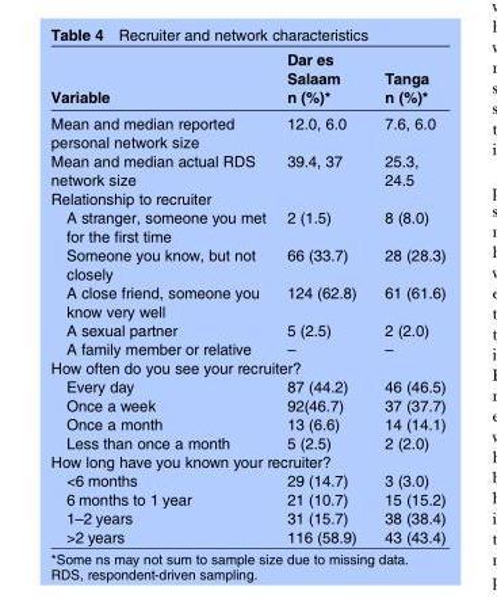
<table><thead><tr><td>Variable</td><td>Dar es Salaam n (%)*</td><td>Tanga n (%)*</td></tr></thead><tbody><tr><td>Mean and median reported personal network size</td><td>12.0, 6.0</td><td>7.6, 6.0</td></tr><tr><td>Mean and median actual RDS network size</td><td>39.4, 37</td><td>25.3, 24.5</td></tr><tr><td colspan="3">Relationship to recruiter</td></tr><tr><td>A stranger, someone you met for the first time</td><td>2 (1.5)</td><td>8 (8.0)</td></tr><tr><td>Someone you know, but not closely</td><td>66 (33.7)</td><td>28 (28.3)</td></tr><tr><td>A close friend, someone you know very well</td><td>124 (62.8)</td><td>61 (61.6)</td></tr><tr><td>A sexual partner</td><td>5 (2.5)</td><td>2 (2.0)</td></tr><tr><td>A family member or relative</td><td>–</td><td>–</td></tr><tr><td colspan="3">How often do you see your recruiter?</td></tr><tr><td>Every day</td><td>87 (44.2)</td><td>46 (46.5)</td></tr><tr><td>Once a week</td><td>92(46.7)</td><td>37 (37.7)</td></tr><tr><td>Once a month</td><td>13 (6.6)</td><td>14 (14.1)</td></tr><tr><td>Less than once a month</td><td>5 (2.5)</td><td>2 (2.0)</td></tr><tr><td colspan="3">How long have you known your recruiter?</td></tr><tr><td>&lt;6 months</td><td>29 (14.7)</td><td>3 (3.0)</td></tr><tr><td>6 months to 1 year</td><td>21 (10.7)</td><td>15 (15.2)</td></tr><tr><td>1–2 years</td><td>31 (15.7)</td><td>38 (38.4)</td></tr><tr><td>&gt;2 years</td><td>116 (58.9)</td><td>43 (43.4)</td></tr></tbody></table>